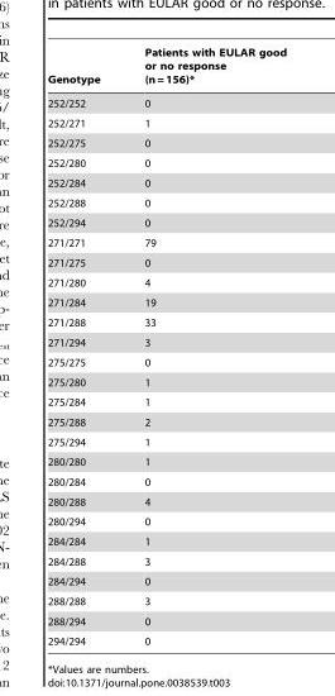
<table><thead><tr><td>Genotype</td><td>Patients with EULAR good or no response (n = 156)*</td></tr></thead><tbody><tr><td>252/252</td><td>0</td></tr><tr><td>252/271</td><td>1</td></tr><tr><td>252/275</td><td>0</td></tr><tr><td>252/280</td><td>0</td></tr><tr><td>252/284</td><td>0</td></tr><tr><td>252/288</td><td>0</td></tr><tr><td>252/294</td><td>0</td></tr><tr><td>271/271</td><td>79</td></tr><tr><td>271/275</td><td>0</td></tr><tr><td>271/280</td><td>4</td></tr><tr><td>271/284</td><td>19</td></tr><tr><td>271/288</td><td>33</td></tr><tr><td>271/294</td><td>3</td></tr><tr><td>275/275</td><td>0</td></tr><tr><td>275/280</td><td>1</td></tr><tr><td>275/284</td><td>1</td></tr><tr><td>275/288</td><td>2</td></tr><tr><td>275/294</td><td>1</td></tr><tr><td>280/280</td><td>1</td></tr><tr><td>280/284</td><td>0</td></tr><tr><td>280/288</td><td>4</td></tr><tr><td>280/294</td><td>0</td></tr><tr><td>284/284</td><td>1</td></tr><tr><td>284/288</td><td>3</td></tr><tr><td>284/294</td><td>0</td></tr><tr><td>288/288</td><td>3</td></tr><tr><td>288/294</td><td>0</td></tr><tr><td>294/294</td><td>0</td></tr></tbody></table>